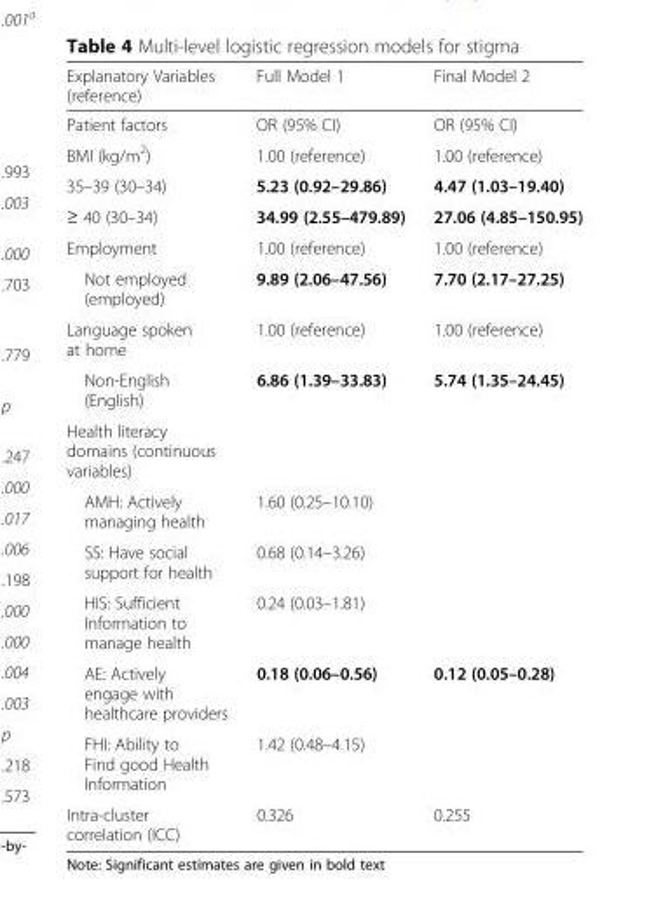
<table><thead><tr><td>Explanatory Variables (reference)</td><td>Full Model 1</td><td>Final Model 2</td></tr></thead><tbody><tr><td>Patient factors</td><td>OR (95% CI)</td><td>OR (95% CI)</td></tr><tr><td>BMI (kg/m<sup>2</sup>)</td><td>1.00 (reference)</td><td>1.00 (reference)</td></tr><tr><td>35–39 (30–34)</td><td>5.23 (0.92–29.86)</td><td>4.47 (1.03–19.40)</td></tr><tr><td>≥ 40 (30–34)</td><td>34.99 (2.55–479.89)</td><td>27.06 (4.85–150.95)</td></tr><tr><td>Employment</td><td>1.00 (reference)</td><td>1.00 (reference)</td></tr><tr><td>Not employed (employed)</td><td>9.89 (2.06–47.56)</td><td>7.70 (2.17–27.25)</td></tr><tr><td>Language spoken at home</td><td>1.00 (reference)</td><td>1.00 (reference)</td></tr><tr><td>Non-English (English)</td><td>6.86 (1.39–33.83)</td><td>5.74 (1.35–24.45)</td></tr><tr><td colspan="3">Health literacy domains (continuous variables)</td></tr><tr><td>AMH: Actively managing health</td><td>1.60 (0.25–10.10)</td><td></td></tr><tr><td>SS: Have social support for health</td><td>0.68 (0.14–3.26)</td><td></td></tr><tr><td>HIS: Sufficient Information to manage health</td><td>0.24 (0.03–1.81)</td><td></td></tr><tr><td>AE: Actively engage with healthcare providers</td><td>0.18 (0.06–0.56)</td><td>0.12 (0.05–0.28)</td></tr><tr><td>FHI: Ability to Find good Health Information</td><td>1.42 (0.48–4.15)</td><td></td></tr><tr><td>Intra-cluster correlation (ICC)</td><td>0.326</td><td>0.255</td></tr></tbody></table>